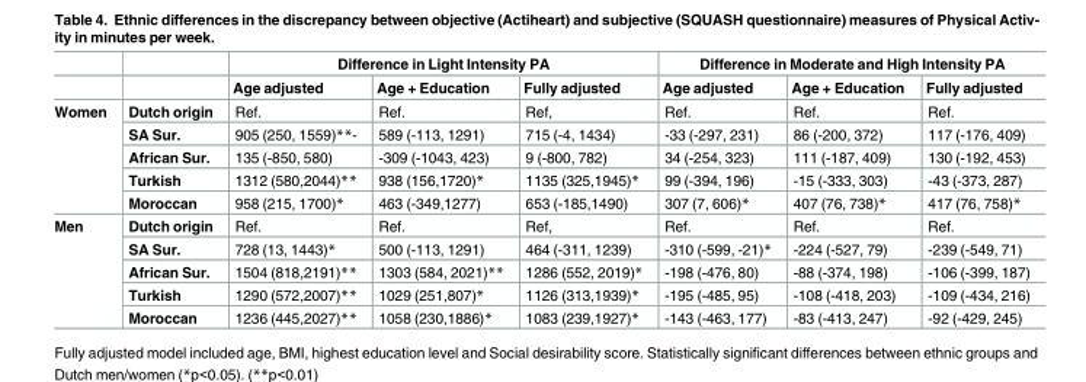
<table><thead><tr><td rowspan="2"></td><td rowspan="2"></td><td colspan="3">Difference in Light Intensity PA</td><td colspan="3">Difference in Moderate and High Intensity PA</td></tr><tr><td>Age adjusted</td><td>Age + Education</td><td>Fully adjusted</td><td>Age adjusted</td><td>Age + Education</td><td>Fully adjusted</td></tr></thead><tbody><tr><td rowspan="5">Women</td><td>Dutch origin</td><td>Ref.</td><td>Ref.</td><td>Ref,</td><td>Ref.</td><td>Ref.</td><td>Ref.</td></tr><tr><td>SA Sur.</td><td>905 (250, 1559)**-</td><td>589 (-113, 1291)</td><td>715 (-4, 1434)</td><td>-33 (-297, 231)</td><td>86 (-200, 372)</td><td>117 (-176, 409)</td></tr><tr><td>African Sur.</td><td>135 (-850, 580)</td><td>-309 (-1043, 423)</td><td>9 (-800, 782)</td><td>34 (-254, 323)</td><td>111 (-187, 409)</td><td>130 (-192, 453)</td></tr><tr><td>Turkish</td><td>1312 (580,2044)**</td><td>938 (156,1720)*</td><td>1135 (325,1945)*</td><td>99 (-394, 196)</td><td>-15 (-333, 303)</td><td>-43 (-373, 287)</td></tr><tr><td>Moroccan</td><td>958 (215, 1700)*</td><td>463 (-349,1277)</td><td>653 (-185,1490)</td><td>307 (7, 606)*</td><td>407 (76, 738)*</td><td>417 (76, 758)*</td></tr><tr><td rowspan="5">Men</td><td>Dutch origin</td><td>Ref.</td><td>Ref.</td><td>Ref,</td><td>Ref.</td><td>Ref.</td><td>Ref.</td></tr><tr><td>SA Sur.</td><td>728 (13, 1443)*</td><td>500 (-113, 1291)</td><td>464 (-311, 1239)</td><td>-310 (-599, -21)*</td><td>-224 (-527, 79)</td><td>-239 (-549, 71)</td></tr><tr><td>African Sur.</td><td>1504 (818,2191)**</td><td>1303 (584, 2021)**</td><td>1286 (552, 2019)*</td><td>-198 (-476, 80)</td><td>-88 (-374, 198)</td><td>-106 (-399, 187)</td></tr><tr><td>Turkish</td><td>1290 (572,2007)**</td><td>1029 (251,807)*</td><td>1126 (313,1939)*</td><td>-195 (-485, 95)</td><td>-108 (-418, 203)</td><td>-109 (-434, 216)</td></tr><tr><td>Moroccan</td><td>1236 (445,2027)**</td><td>1058 (230,1886)*</td><td>1083 (239,1927)*</td><td>-143 (-463, 177)</td><td>-83 (-413, 247)</td><td>-92 (-429, 245)</td></tr></tbody></table>